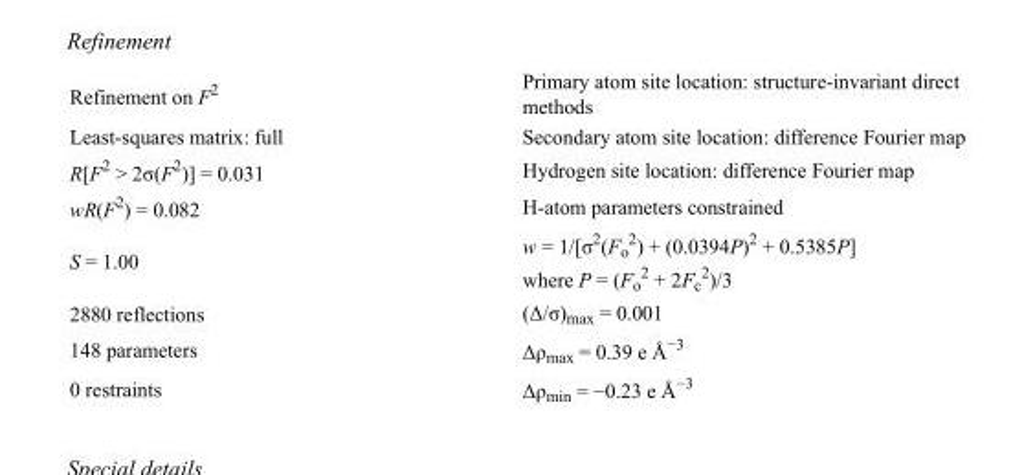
<table><tbody><tr><td>Refinement on F<sup>2</sup></td><td>Primary atom site location: structure-invariant direct methods</td></tr><tr><td>Least-squares matrix: full</td><td>Secondary atom site location: difference Fourier map</td></tr><tr><td>R[F<sup>2</sup> &gt; 2σ(F<sup>2</sup>)] = 0.031</td><td>Hydrogen site location: difference Fourier map</td></tr><tr><td>wR(F<sup>2</sup>) = 0.082</td><td>H-atom parameters constrained</td></tr><tr><td>S = 1.00</td><td>w = 1/[σ<sup>2</sup>(F<sub>o</sub> <sup>2</sup>) + (0.0394P)<sup>2</sup> + 0.5385P] where P = (F<sub>o</sub> <sup>2</sup> + 2F<sub>c</sub> <sup>2</sup>)/3</td></tr><tr><td>2880 reflections</td><td>(Δ/σ)<sub>max</sub> = 0.001</td></tr><tr><td>148 parameters</td><td>Δρ<sub>max</sub> = 0.39 e Å<sup>−3</sup></td></tr><tr><td>0 restraints</td><td>Δρ<sub>min</sub> = −0.23 e Å<sup>−3</sup></td></tr></tbody></table>